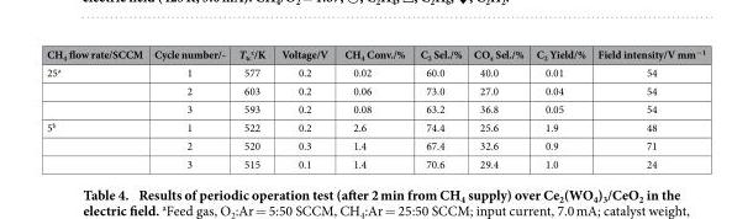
<table><thead><tr><td>CH<sub>4</sub> flow rate/SCCM</td><td>Cycle number/-</td><td>T<sub>tc</sub> <sup>c</sup>/K</td><td>Voltage/V</td><td>CH<sub>4</sub> Conv./%</td><td>C<sub>2</sub> Sel./%</td><td>CO<sub>x</sub> Sel./%</td><td>C<sub>2</sub> Yield/%</td><td>Field intensity/V mm<sup>−1</sup></td></tr></thead><tbody><tr><td rowspan="3">25<sup>a</sup></td><td>1</td><td>577</td><td>0.2</td><td>0.02</td><td>60.0</td><td>40.0</td><td>0.01</td><td>54</td></tr><tr><td>2</td><td>603</td><td>0.2</td><td>0.06</td><td>73.0</td><td>27.0</td><td>0.04</td><td>54</td></tr><tr><td>3</td><td>593</td><td>0.2</td><td>0.08</td><td>63.2</td><td>36.8</td><td>0.05</td><td>54</td></tr><tr><td rowspan="3">5<sup>b</sup></td><td>1</td><td>522</td><td>0.2</td><td>2.6</td><td>74.4</td><td>25.6</td><td>1.9</td><td>48</td></tr><tr><td>2</td><td>520</td><td>0.3</td><td>1.4</td><td>67.4</td><td>32.6</td><td>0.9</td><td>71</td></tr><tr><td>3</td><td>515</td><td>0.1</td><td>1.4</td><td>70.6</td><td>29.4</td><td>1.0</td><td>24</td></tr></tbody></table>